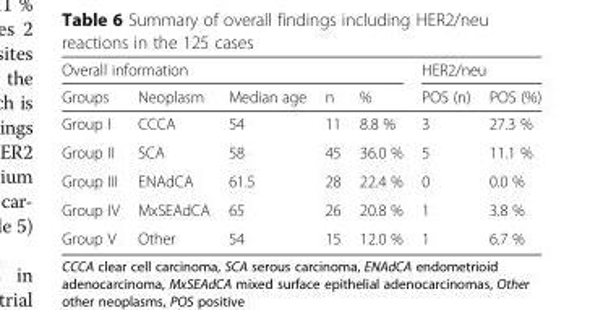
<table><thead><tr><td colspan="5">Overall information</td><td colspan="2">HER2/neu</td></tr><tr><td>Groups</td><td>Neoplasm</td><td>Median age</td><td>n</td><td>%</td><td>POS (n)</td><td>POS (%)</td></tr></thead><tbody><tr><td>Group I</td><td>CCCA</td><td>54</td><td>11</td><td>8.8 %</td><td>3</td><td>27.3 %</td></tr><tr><td>Group II</td><td>SCA</td><td>58</td><td>45</td><td>36.0 %</td><td>5</td><td>11.1 %</td></tr><tr><td>Group III</td><td>ENAdCA</td><td>61.5</td><td>28</td><td>22.4 %</td><td>0</td><td>0.0 %</td></tr><tr><td>Group IV</td><td>MxSEAdCA</td><td>65</td><td>26</td><td>20.8 %</td><td>1</td><td>3.8 %</td></tr><tr><td>Group V</td><td>Other</td><td>54</td><td>15</td><td>12.0 %</td><td>1</td><td>6.7 %</td></tr></tbody></table>